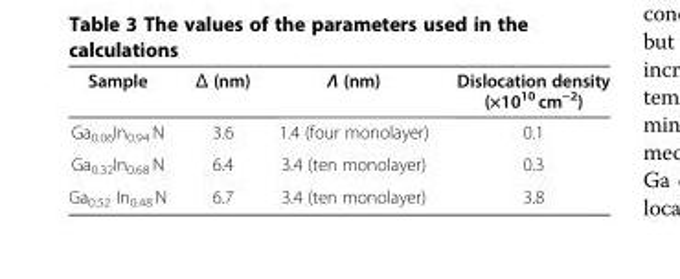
<table><thead><tr><td>Sample</td><td>Δ (nm)</td><td>Λ (nm)</td><td>Dislocation density (×10<sup>10</sup> cm<sup>−2</sup>)</td></tr></thead><tbody><tr><td>Ga<sub>0.06</sub>In<sub>0.94</sub> N</td><td>3.6</td><td>1.4 (four monolayer)</td><td>0.1</td></tr><tr><td>Ga<sub>0.32</sub>In<sub>0.68</sub> N</td><td>6.4</td><td>3.4 (ten monolayer)</td><td>0.3</td></tr><tr><td>Ga<sub>0.52</sub> In<sub>0.48</sub> N</td><td>6.7</td><td>3.4 (ten monolayer)</td><td>3.8</td></tr></tbody></table>